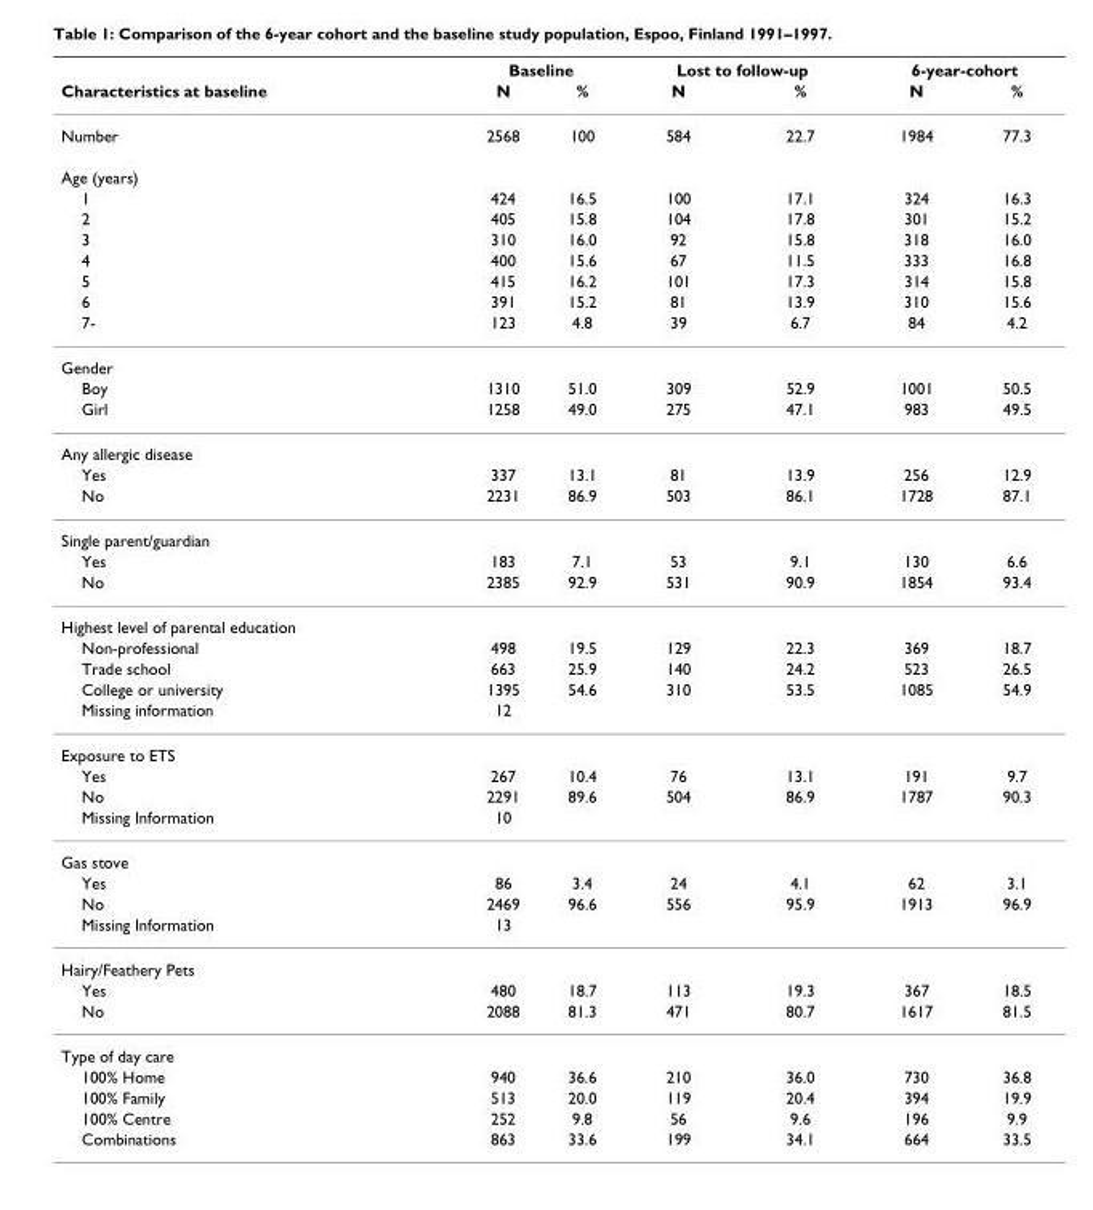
<table><thead><tr><td rowspan="2">Characteristics at baseline</td><td colspan="2">Baseline</td><td colspan="2">Lost to follow-up</td><td colspan="2">6-year-cohort</td></tr><tr><td>N</td><td>%</td><td>N</td><td>%</td><td>N</td><td>%</td></tr></thead><tbody><tr><td>Number</td><td>2568</td><td>100</td><td>584</td><td>22.7</td><td>1984</td><td>77.3</td></tr><tr><td colspan="7">Age (years)</td></tr><tr><td>1</td><td>424</td><td>16.5</td><td>100</td><td>17.1</td><td>324</td><td>16.3</td></tr><tr><td>2</td><td>405</td><td>15.8</td><td>104</td><td>17.8</td><td>301</td><td>15.2</td></tr><tr><td>3</td><td>310</td><td>16.0</td><td>92</td><td>15.8</td><td>318</td><td>16.0</td></tr><tr><td>4</td><td>400</td><td>15.6</td><td>67</td><td>11.5</td><td>333</td><td>16.8</td></tr><tr><td>5</td><td>415</td><td>16.2</td><td>101</td><td>17.3</td><td>314</td><td>15.8</td></tr><tr><td>6</td><td>391</td><td>15.2</td><td>81</td><td>13.9</td><td>310</td><td>15.6</td></tr><tr><td>7-</td><td>123</td><td>4.8</td><td>39</td><td>6.7</td><td>84</td><td>4.2</td></tr><tr><td colspan="7">Gender</td></tr><tr><td>Boy</td><td>1310</td><td>51.0</td><td>309</td><td>52.9</td><td>1001</td><td>50.5</td></tr><tr><td>Girl</td><td>1258</td><td>49.0</td><td>275</td><td>47.1</td><td>983</td><td>49.5</td></tr><tr><td colspan="7">Any allergic disease</td></tr><tr><td>Yes</td><td>337</td><td>13.1</td><td>81</td><td>13.9</td><td>256</td><td>12.9</td></tr><tr><td>No</td><td>2231</td><td>86.9</td><td>503</td><td>86.1</td><td>1728</td><td>87.1</td></tr><tr><td colspan="7">Single parent/guardian</td></tr><tr><td>Yes</td><td>183</td><td>7.1</td><td>53</td><td>9.1</td><td>130</td><td>6.6</td></tr><tr><td>No</td><td>2385</td><td>92.9</td><td>531</td><td>90.9</td><td>1854</td><td>93.4</td></tr><tr><td colspan="7">Highest level of parental education</td></tr><tr><td>Non-professional</td><td>498</td><td>19.5</td><td>129</td><td>22.3</td><td>369</td><td>18.7</td></tr><tr><td>Trade school</td><td>663</td><td>25.9</td><td>140</td><td>24.2</td><td>523</td><td>26.5</td></tr><tr><td>College or university</td><td>1395</td><td>54.6</td><td>310</td><td>53.5</td><td>1085</td><td>54.9</td></tr><tr><td>Missing information</td><td>12</td><td></td><td></td><td></td><td></td><td></td></tr><tr><td colspan="7">Exposure to ETS</td></tr><tr><td>Yes</td><td>267</td><td>10.4</td><td>76</td><td>13.1</td><td>191</td><td>9.7</td></tr><tr><td>No</td><td>2291</td><td>89.6</td><td>504</td><td>86.9</td><td>1787</td><td>90.3</td></tr><tr><td>Missing Information</td><td>10</td><td></td><td></td><td></td><td></td><td></td></tr><tr><td colspan="7">Gas stove</td></tr><tr><td>Yes</td><td>86</td><td>3.4</td><td>24</td><td>4.1</td><td>62</td><td>3.1</td></tr><tr><td>No</td><td>2469</td><td>96.6</td><td>556</td><td>95.9</td><td>1913</td><td>96.9</td></tr><tr><td>Missing Information</td><td>13</td><td></td><td></td><td></td><td></td><td></td></tr><tr><td colspan="7">Hairy/Feathery Pets</td></tr><tr><td>Yes</td><td>480</td><td>18.7</td><td>113</td><td>19.3</td><td>367</td><td>18.5</td></tr><tr><td>No</td><td>2088</td><td>81.3</td><td>471</td><td>80.7</td><td>1617</td><td>81.5</td></tr><tr><td colspan="7">Type of day care</td></tr><tr><td>100% Home</td><td>940</td><td>36.6</td><td>210</td><td>36.0</td><td>730</td><td>36.8</td></tr><tr><td>100% Family</td><td>513</td><td>20.0</td><td>119</td><td>20.4</td><td>394</td><td>19.9</td></tr><tr><td>100% Centre</td><td>252</td><td>9.8</td><td>56</td><td>9.6</td><td>196</td><td>9.9</td></tr><tr><td>Combinations</td><td>863</td><td>33.6</td><td>199</td><td>34.1</td><td>664</td><td>33.5</td></tr></tbody></table>